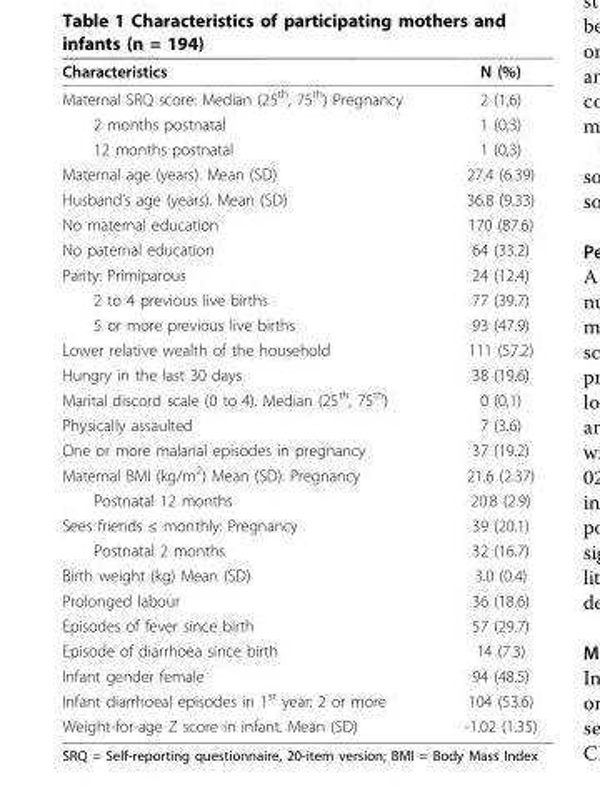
<table><thead><tr><td>Characteristics</td><td>N (%)</td></tr></thead><tbody><tr><td>Maternal SRQ score: Median (25<sup>th</sup>, 75<sup>th</sup>) Pregnancy</td><td>2 (1,6)</td></tr><tr><td>2 months postnatal</td><td>1 (0,3)</td></tr><tr><td>12 months postnatal</td><td>1 (0,3)</td></tr><tr><td>Maternal age (years). Mean (SD)</td><td>27.4 (6.39)</td></tr><tr><td>Husband’s age (years). Mean (SD)</td><td>36.8 (9.33)</td></tr><tr><td>No maternal education</td><td>170 (87.6)</td></tr><tr><td>No paternal education</td><td>64 (33.2)</td></tr><tr><td>Parity: Primiparous</td><td>24 (12.4)</td></tr><tr><td>2 to 4 previous live births</td><td>77 (39.7)</td></tr><tr><td>5 or more previous live births</td><td>93 (47.9)</td></tr><tr><td>Lower relative wealth of the household</td><td>111 (57.2)</td></tr><tr><td>Hungry in the last 30 days</td><td>38 (19.6)</td></tr><tr><td>Marital discord scale (0 to 4). Median (25<sup>th</sup>, 75<sup>th</sup>)</td><td>0 (0,1)</td></tr><tr><td>Physically assaulted</td><td>7 (3.6)</td></tr><tr><td>One or more malarial episodes in pregnancy</td><td>37 (19.2)</td></tr><tr><td>Maternal BMI (kg/m<sup>2</sup>) Mean (SD): Pregnancy</td><td>21.6 (2.37)</td></tr><tr><td>Postnatal 12 months</td><td>20.8 (2.9)</td></tr><tr><td>Sees friends ≤ monthly: Pregnancy</td><td>39 (20.1)</td></tr><tr><td>Postnatal 2 months</td><td>32 (16.7)</td></tr><tr><td>Birth weight (kg) Mean (SD)</td><td>3.0 (0.4)</td></tr><tr><td>Prolonged labour</td><td>36 (18.6)</td></tr><tr><td>Episodes of fever since birth</td><td>57 (29.7)</td></tr><tr><td>Episode of diarrhoea since birth</td><td>14 (7.3)</td></tr><tr><td>Infant gender female</td><td>94 (48.5)</td></tr><tr><td>Infant diarrhoeal episodes in 1<sup>st</sup> year: 2 or more</td><td>104 (53.6)</td></tr><tr><td>Weight-for-age Z score in infant. Mean (SD)</td><td>-1.02 (1.35)</td></tr></tbody></table>